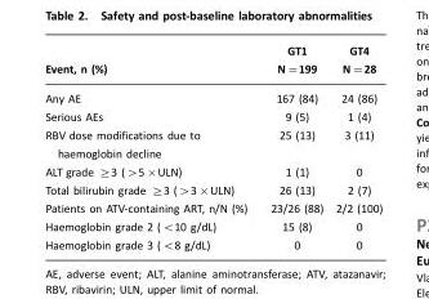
<table><thead><tr><td>Event, n (%)</td><td>GT1 N=199</td><td>GT4 N=28</td></tr></thead><tbody><tr><td>Any AE</td><td>167 (84)</td><td>24 (86)</td></tr><tr><td>Serious AEs</td><td>9 (5)</td><td>1 (4)</td></tr><tr><td>RBV dose modifications due to haemoglobin decline</td><td>25 (13)</td><td>3 (11)</td></tr><tr><td>ALT grade ≥3 (&gt;5×ULN)</td><td>1 (1)</td><td>0</td></tr><tr><td>Total bilirubin grade ≥3 (&gt;3×ULN)</td><td>26 (13)</td><td>2 (7)</td></tr><tr><td>Patients on ATV-containing ART, n/N (%)</td><td>23/26 (88)</td><td>2/2 (100)</td></tr><tr><td>Haemoglobin grade 2 (&lt;10 g/dL)</td><td>15 (8)</td><td>0</td></tr><tr><td>Haemoglobin grade 3 (&lt;8 g/dL)</td><td>0</td><td>0</td></tr></tbody></table>